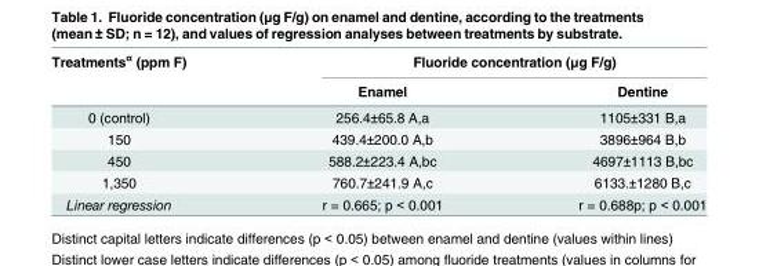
<table><thead><tr><td rowspan="2">Treatments<sup>α</sup> (ppm F)</td><td colspan="2">Fluoride concentration (μg F/g)</td></tr><tr><td>Enamel</td><td>Dentine</td></tr></thead><tbody><tr><td>0 (control)</td><td>256.4±65.8 A,a</td><td>1105±331 B,a</td></tr><tr><td>150</td><td>439.4±200.0 A,b</td><td>3896±964 B,b</td></tr><tr><td>450</td><td>588.2±223.4 A,bc</td><td>4697±1113 B,bc</td></tr><tr><td>1,350</td><td>760.7±241.9 A,c</td><td>6133.±1280 B,c</td></tr><tr><td>Linear regression</td><td>r = 0.665; p &lt; 0.001</td><td>r = 0.688p; p &lt; 0.001</td></tr></tbody></table>